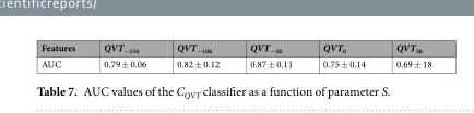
<table><thead><tr><td>Features</td><td>QVT<sub>−150</sub></td><td>QVT<sub>−100</sub></td><td>QVT<sub>−50</sub></td><td>QVT<sub>0</sub></td><td>QVT<sub>50</sub></td></tr></thead><tbody><tr><td>AUC</td><td>0.79 ± 0.06</td><td>0.82 ± 0.12</td><td>0.87 ± 0.11</td><td>0.75 ± 0.14</td><td>0.69 ± 18</td></tr></tbody></table>